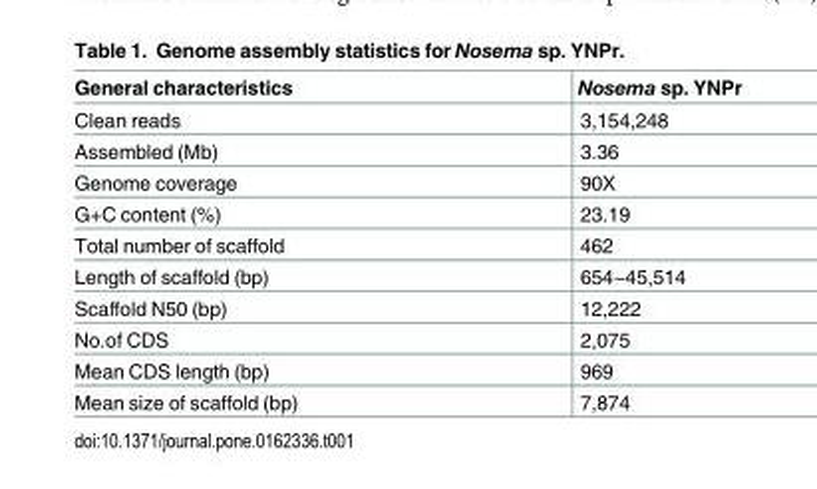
<table><thead><tr><td>General characteristics</td><td>Nosema sp. YNPr</td></tr></thead><tbody><tr><td>Clean reads</td><td>3,154,248</td></tr><tr><td>Assembled (Mb)</td><td>3.36</td></tr><tr><td>Genome coverage</td><td>90X</td></tr><tr><td>G+C content (%)</td><td>23.19</td></tr><tr><td>Total number of scaffold</td><td>462</td></tr><tr><td>Length of scaffold (bp)</td><td>654~45,514</td></tr><tr><td>Scaffold N50 (bp)</td><td>12,222</td></tr><tr><td>No.of CDS</td><td>2,075</td></tr><tr><td>Mean CDS length (bp)</td><td>969</td></tr><tr><td>Mean size of scaffold (bp)</td><td>7,874</td></tr></tbody></table>